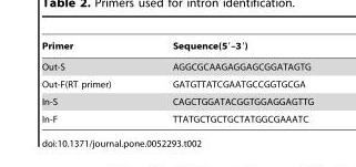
<table><thead><tr><td>Primer</td><td>Sequence(5′–3′)</td></tr></thead><tbody><tr><td>Out-S</td><td>AGGCGCAAGAGGAGCGGATAGTG</td></tr><tr><td>Out-F(RT primer)</td><td>GATGTTATCGAATGCCGGTGCGA</td></tr><tr><td>In-S</td><td>CAGCTGGATACGGTGGAGGAGTTG</td></tr><tr><td>In-F</td><td>TTATGCTGCTGCTATGGCGAAATC</td></tr></tbody></table>